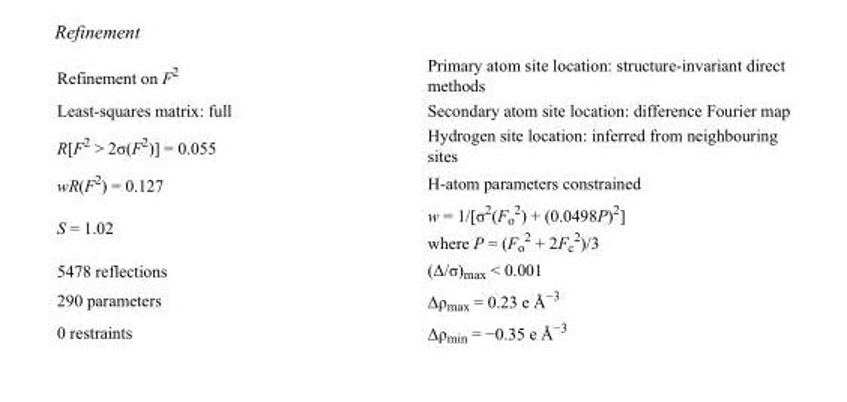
<table><tbody><tr><td>Refinement on F<sup>2</sup></td><td>Primary atom site location: structure-invariant direct methods</td></tr><tr><td>Least-squares matrix: full</td><td>Secondary atom site location: difference Fourier map</td></tr><tr><td>R[F<sup>2</sup> &gt; 2σ(F<sup>2</sup>)] = 0.055</td><td>Hydrogen site location: inferred from neighbouring sites</td></tr><tr><td>wR(F<sup>2</sup>) = 0.127</td><td>H-atom parameters constrained</td></tr><tr><td>S = 1.02</td><td>w = 1/[σ<sup>2</sup>(F<sub>o</sub> <sup>2</sup>) + (0.0498P)<sup>2</sup>] where P = (F<sub>o</sub> <sup>2</sup> + 2F<sub>c</sub> <sup>2</sup>)/3</td></tr><tr><td>5478 reflections</td><td>(Δ/σ)<sub>max</sub> &lt; 0.001</td></tr><tr><td>290 parameters</td><td>Δρ<sub>max</sub> = 0.23 e Å<sup>−3</sup></td></tr><tr><td>0 restraints</td><td>Δρ<sub>min</sub> = −0.35 e Å<sup>−3</sup></td></tr></tbody></table>